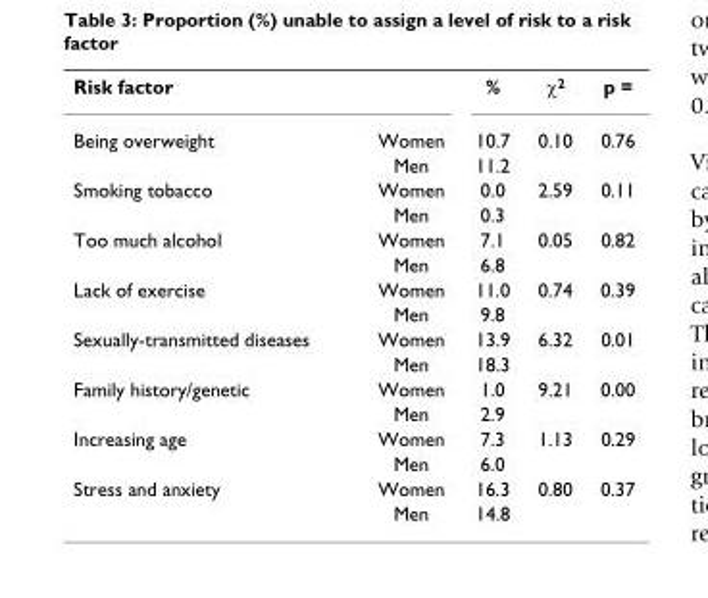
<table><tbody><tr><td>Risk factor</td><td></td><td>%</td><td>χ<sup>2</sup></td><td>p =</td></tr><tr><td rowspan="2">Being overweight</td><td>Women</td><td>10.7</td><td>0.10</td><td>0.76</td></tr><tr><td>Men</td><td>11.2</td><td></td><td></td></tr><tr><td rowspan="2">Smoking tobacco</td><td>Women</td><td>0.0</td><td>2.59</td><td>0.11</td></tr><tr><td>Men</td><td>0.3</td><td></td><td></td></tr><tr><td rowspan="2">Too much alcohol</td><td>Women</td><td>7.1</td><td>0.05</td><td>0.82</td></tr><tr><td>Men</td><td>6.8</td><td></td><td></td></tr><tr><td rowspan="2">Lack of exercise</td><td>Women</td><td>11.0</td><td>0.74</td><td>0.39</td></tr><tr><td>Men</td><td>9.8</td><td></td><td></td></tr><tr><td rowspan="2">Sexually-transmitted diseases</td><td>Women</td><td>13.9</td><td>6.32</td><td>0.01</td></tr><tr><td>Men</td><td>18.3</td><td></td><td></td></tr><tr><td rowspan="2">Family history/genetic</td><td>Women</td><td>1.0</td><td>9.21</td><td>0.00</td></tr><tr><td>Men</td><td>2.9</td><td></td><td></td></tr><tr><td rowspan="2">Increasing age</td><td>Women</td><td>7.3</td><td>1.13</td><td>0.29</td></tr><tr><td>Men</td><td>6.0</td><td></td><td></td></tr><tr><td rowspan="2">Stress and anxiety</td><td>Women</td><td>16.3</td><td>0.80</td><td>0.37</td></tr><tr><td>Men</td><td>14.8</td><td></td><td></td></tr></tbody></table>